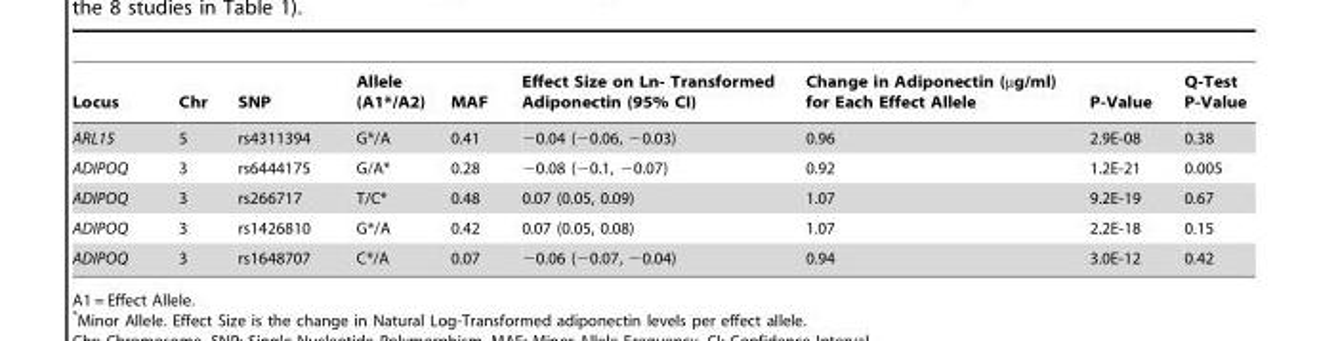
<table><thead><tr><td>Locus</td><td>Chr</td><td>SNP</td><td>Allele (A1*/A2)</td><td>MAF</td><td>Effect Size on Ln- Transformed Adiponectin (95% CI)</td><td>Change in Adiponectin (µg/ml) for Each Effect Allele</td><td>P-Value</td><td>Q-Test P-Value</td></tr></thead><tbody><tr><td>ARL15</td><td>5</td><td>rs4311394</td><td>G*/A</td><td>0.41</td><td>−0.04 (−0.06, −0.03)</td><td>0.96</td><td>2.9E-08</td><td>0.38</td></tr><tr><td>ADIPOQ</td><td>3</td><td>rs6444175</td><td>G/A*</td><td>0.28</td><td>−0.08 (−0.1, −0.07)</td><td>0.92</td><td>1.2E-21</td><td>0.005</td></tr><tr><td>ADIPOQ</td><td>3</td><td>rs266717</td><td>T/C*</td><td>0.48</td><td>0.07 (0.05, 0.09)</td><td>1.07</td><td>9.2E-19</td><td>0.67</td></tr><tr><td>ADIPOQ</td><td>3</td><td>rs1426810</td><td>G*/A</td><td>0.42</td><td>0.07 (0.05, 0.08)</td><td>1.07</td><td>2.2E-18</td><td>0.15</td></tr><tr><td>ADIPOQ</td><td>3</td><td>rs1648707</td><td>C*/A</td><td>0.07</td><td>−0.06 (−0.07, −0.04)</td><td>0.94</td><td>3.0E-12</td><td>0.42</td></tr></tbody></table>